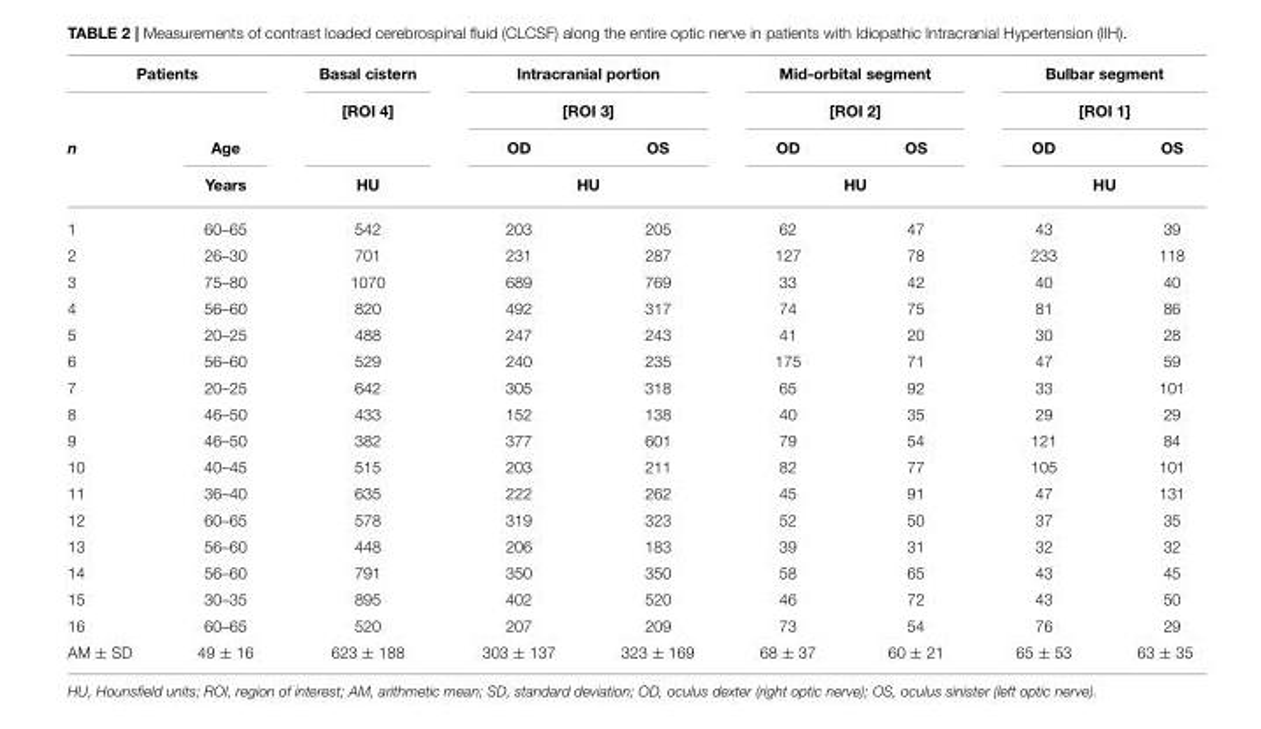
<table><thead><tr><td colspan="2">Patients</td><td rowspan="4">Basal cistern [ROI 4] HU</td><td rowspan="2" colspan="2">Intracranial portion [ROI 3]</td><td rowspan="2" colspan="2">Mid-orbital segment [ROI 2]</td><td rowspan="2" colspan="2">Bulbar segment [ROI 1]</td></tr><tr><td rowspan="3">n</td><td rowspan="3">Age Years</td></tr><tr><td>OD</td><td>OS</td><td>OD</td><td>OS</td><td>OD</td><td>OS</td></tr><tr><td colspan="2">HU</td><td colspan="2">HU</td><td colspan="2">HU</td></tr></thead><tbody><tr><td>1</td><td>60–65</td><td>542</td><td>203</td><td>205</td><td>62</td><td>47</td><td>43</td><td>39</td></tr><tr><td>2</td><td>26–30</td><td>701</td><td>231</td><td>287</td><td>127</td><td>78</td><td>233</td><td>118</td></tr><tr><td>3</td><td>75–80</td><td>1070</td><td>689</td><td>769</td><td>33</td><td>42</td><td>40</td><td>40</td></tr><tr><td>4</td><td>56–60</td><td>820</td><td>492</td><td>317</td><td>74</td><td>75</td><td>81</td><td>86</td></tr><tr><td>5</td><td>20–25</td><td>488</td><td>247</td><td>243</td><td>41</td><td>20</td><td>30</td><td>28</td></tr><tr><td>6</td><td>56–60</td><td>529</td><td>240</td><td>235</td><td>175</td><td>71</td><td>47</td><td>59</td></tr><tr><td>7</td><td>20–25</td><td>642</td><td>305</td><td>318</td><td>65</td><td>92</td><td>33</td><td>101</td></tr><tr><td>8</td><td>46–50</td><td>433</td><td>152</td><td>138</td><td>40</td><td>35</td><td>29</td><td>29</td></tr><tr><td>9</td><td>46–50</td><td>382</td><td>377</td><td>601</td><td>79</td><td>54</td><td>121</td><td>84</td></tr><tr><td>10</td><td>40–45</td><td>515</td><td>203</td><td>211</td><td>82</td><td>77</td><td>105</td><td>101</td></tr><tr><td>11</td><td>36–40</td><td>635</td><td>222</td><td>262</td><td>45</td><td>91</td><td>47</td><td>131</td></tr><tr><td>12</td><td>60–65</td><td>578</td><td>319</td><td>323</td><td>52</td><td>50</td><td>37</td><td>35</td></tr><tr><td>13</td><td>56–60</td><td>448</td><td>206</td><td>183</td><td>39</td><td>31</td><td>32</td><td>32</td></tr><tr><td>14</td><td>56–60</td><td>791</td><td>350</td><td>350</td><td>58</td><td>65</td><td>43</td><td>45</td></tr><tr><td>15</td><td>30–35</td><td>895</td><td>402</td><td>520</td><td>46</td><td>72</td><td>43</td><td>50</td></tr><tr><td>16</td><td>60–65</td><td>520</td><td>207</td><td>209</td><td>73</td><td>54</td><td>76</td><td>29</td></tr><tr><td>AM ± SD</td><td>49 ± 16</td><td>623 ± 188</td><td>303 ± 137</td><td>323 ± 169</td><td>68 ± 37</td><td>60 ± 21</td><td>65 ± 53</td><td>63 ± 35</td></tr></tbody></table>